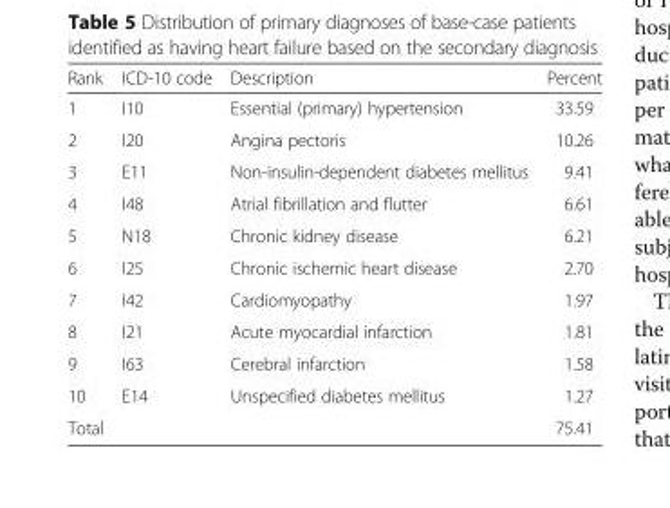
<table><thead><tr><td>Rank</td><td>ICD-10 code</td><td>Description</td><td>Percent</td></tr></thead><tbody><tr><td>1</td><td>I10</td><td>Essential (primary) hypertension</td><td>33.59</td></tr><tr><td>2</td><td>I20</td><td>Angina pectoris</td><td>10.26</td></tr><tr><td>3</td><td>E11</td><td>Non-insulin-dependent diabetes mellitus</td><td>9.41</td></tr><tr><td>4</td><td>I48</td><td>Atrial fibrillation and flutter</td><td>6.61</td></tr><tr><td>5</td><td>N18</td><td>Chronic kidney disease</td><td>6.21</td></tr><tr><td>6</td><td>I25</td><td>Chronic ischemic heart disease</td><td>2.70</td></tr><tr><td>7</td><td>I42</td><td>Cardiomyopathy</td><td>1.97</td></tr><tr><td>8</td><td>I21</td><td>Acute myocardial infarction</td><td>1.81</td></tr><tr><td>9</td><td>I63</td><td>Cerebral infarction</td><td>1.58</td></tr><tr><td>10</td><td>E14</td><td>Unspecified diabetes mellitus</td><td>1.27</td></tr><tr><td>Total</td><td></td><td></td><td>75.41</td></tr></tbody></table>